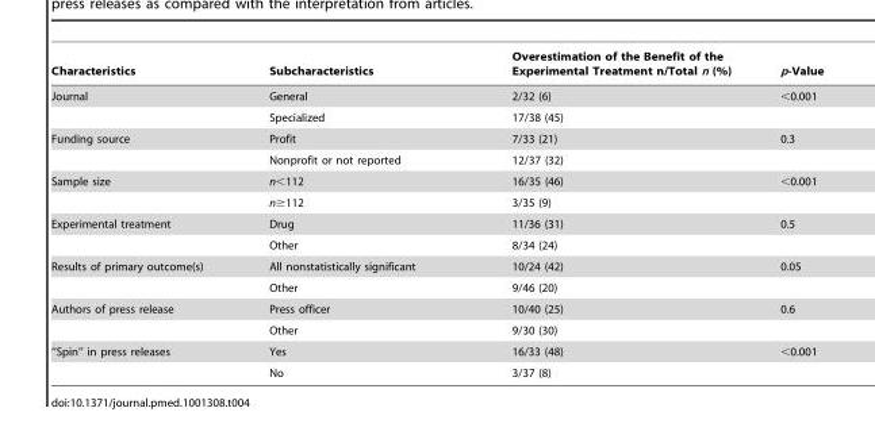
<table><thead><tr><td>Characteristics</td><td>Subcharacteristics</td><td>Overestimation of the Benefit of the Experimental Treatment n/Total n (%)</td><td>p-Value</td></tr></thead><tbody><tr><td rowspan="2">Journal</td><td>General</td><td>2/32 (6)</td><td>&lt;0.001</td></tr><tr><td>Specialized</td><td>17/38 (45)</td><td></td></tr><tr><td rowspan="2">Funding source</td><td>Profit</td><td>7/33 (21)</td><td>0.3</td></tr><tr><td>Nonprofit or not reported</td><td>12/37 (32)</td><td></td></tr><tr><td rowspan="2">Sample size</td><td>n&lt;112</td><td>16/35 (46)</td><td>&lt;0.001</td></tr><tr><td>n≥112</td><td>3/35 (9)</td><td></td></tr><tr><td rowspan="2">Experimental treatment</td><td>Drug</td><td>11/36 (31)</td><td>0.5</td></tr><tr><td>Other</td><td>8/34 (24)</td><td></td></tr><tr><td rowspan="2">Results of primary outcome(s)</td><td>All nonstatistically significant</td><td>10/24 (42)</td><td>0.05</td></tr><tr><td>Other</td><td>9/46 (20)</td><td></td></tr><tr><td rowspan="2">Authors of press release</td><td>Press officer</td><td>10/40 (25)</td><td>0.6</td></tr><tr><td>Other</td><td>9/30 (30)</td><td></td></tr><tr><td rowspan="2">‘‘Spin’’ in press releases</td><td>Yes</td><td>16/33 (48)</td><td>&lt;0.001</td></tr><tr><td>No</td><td>3/37 (8)</td><td></td></tr></tbody></table>